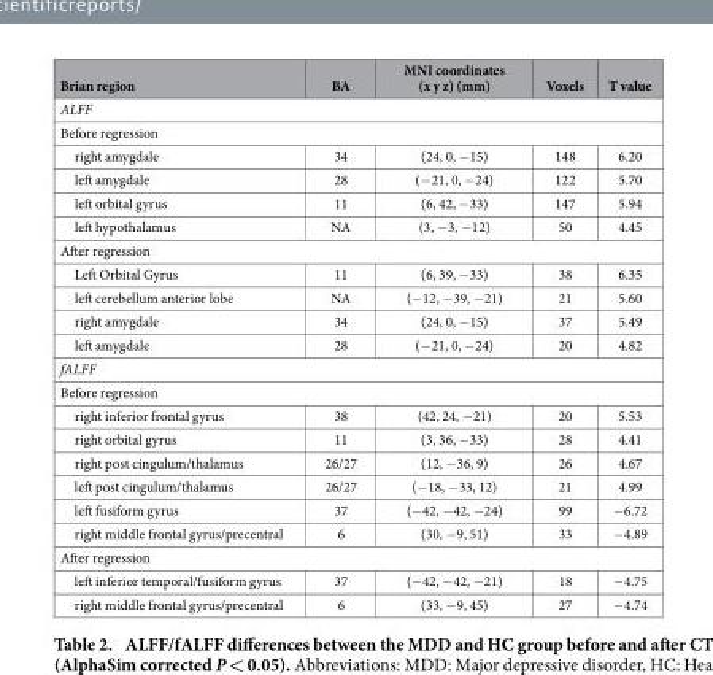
<table><thead><tr><td>Brian region</td><td>BA</td><td>MNI coordinates (x y z) (mm)</td><td>Voxels</td><td>T value</td></tr></thead><tbody><tr><td colspan="5">ALFF</td></tr><tr><td colspan="5">Before regression</td></tr><tr><td>right amygdale</td><td>34</td><td>(24, 0, −15)</td><td>148</td><td>6.20</td></tr><tr><td>left amygdale</td><td>28</td><td>(−21, 0, −24)</td><td>122</td><td>5.70</td></tr><tr><td>left orbital gyrus</td><td>11</td><td>(6, 42, −33)</td><td>147</td><td>5.94</td></tr><tr><td>left hypothalamus</td><td>NA</td><td>(3, −3, −12)</td><td>50</td><td>4.45</td></tr><tr><td colspan="5">After regression</td></tr><tr><td>Left Orbital Gyrus</td><td>11</td><td>(6, 39, −33)</td><td>38</td><td>6.35</td></tr><tr><td>left cerebellum anterior lobe</td><td>NA</td><td>(−12, −39, −21)</td><td>21</td><td>5.60</td></tr><tr><td>right amygdale</td><td>34</td><td>(24, 0, −15)</td><td>37</td><td>5.49</td></tr><tr><td>left amygdale</td><td>28</td><td>(−21, 0, −24)</td><td>20</td><td>4.82</td></tr><tr><td colspan="5">fALFF</td></tr><tr><td colspan="5">Before regression</td></tr><tr><td>right inferior frontal gyrus</td><td>38</td><td>(42, 24, −21)</td><td>20</td><td>5.53</td></tr><tr><td>right orbital gyrus</td><td>11</td><td>(3, 36, −33)</td><td>28</td><td>4.41</td></tr><tr><td>right post cingulum/thalamus</td><td>26/27</td><td>(12, −36, 9)</td><td>26</td><td>4.67</td></tr><tr><td>left post cingulum/thalamus</td><td>26/27</td><td>(−18, −33, 12)</td><td>21</td><td>4.99</td></tr><tr><td>left fusiform gyrus</td><td>37</td><td>(−42, −42, −24)</td><td>99</td><td>−6.72</td></tr><tr><td>right middle frontal gyrus/precentral</td><td>6</td><td>(30, −9, 51)</td><td>33</td><td>−4.89</td></tr><tr><td colspan="5">After regression</td></tr><tr><td>left inferior temporal/fusiform gyrus</td><td>37</td><td>(−42, −42, −21)</td><td>18</td><td>−4.75</td></tr><tr><td>right middle frontal gyrus/precentral</td><td>6</td><td>(33, −9, 45)</td><td>27</td><td>−4.74</td></tr></tbody></table>